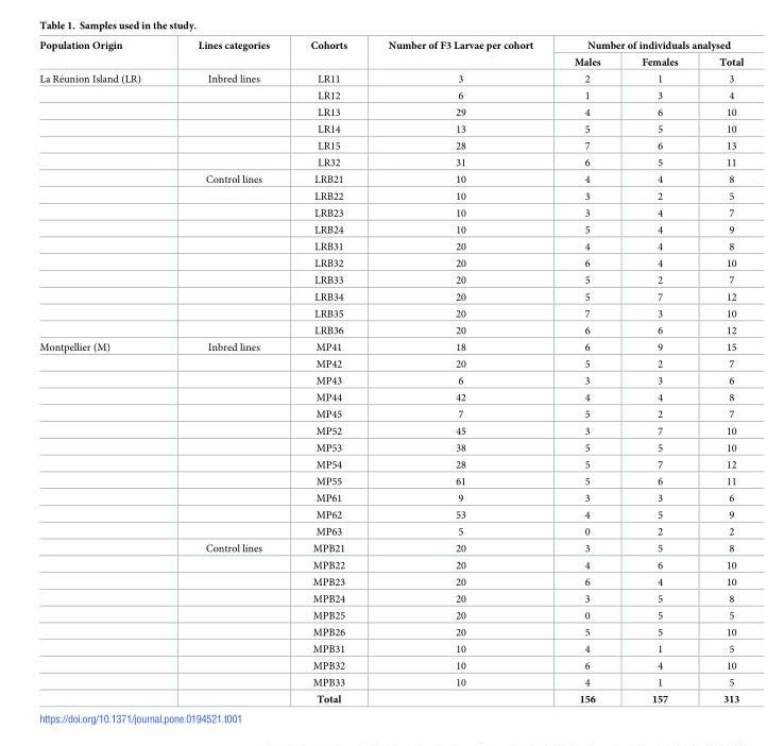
<table><thead><tr><td rowspan="2">Population Origin</td><td rowspan="2">Lines categories</td><td rowspan="2">Cohorts</td><td rowspan="2">Number of F3 Larvae per cohort</td><td colspan="3">Number of individuals analysed</td></tr><tr><td>Males</td><td>Females</td><td>Total</td></tr></thead><tbody><tr><td rowspan="16">La Re´union Island (LR)</td><td>Inbred lines</td><td>LR11</td><td>3</td><td>2</td><td>1</td><td>3</td></tr><tr><td></td><td>LR12</td><td>6</td><td>1</td><td>3</td><td>4</td></tr><tr><td></td><td>LR13</td><td>29</td><td>4</td><td>6</td><td>10</td></tr><tr><td></td><td>LR14</td><td>13</td><td>5</td><td>5</td><td>10</td></tr><tr><td></td><td>LR15</td><td>28</td><td>7</td><td>6</td><td>13</td></tr><tr><td></td><td>LR32</td><td>31</td><td>6</td><td>5</td><td>11</td></tr><tr><td>Control lines</td><td>LRB21</td><td>10</td><td>4</td><td>4</td><td>8</td></tr><tr><td></td><td>LRB22</td><td>10</td><td>3</td><td>2</td><td>5</td></tr><tr><td></td><td>LRB23</td><td>10</td><td>3</td><td>4</td><td>7</td></tr><tr><td></td><td>LRB24</td><td>10</td><td>5</td><td>4</td><td>9</td></tr><tr><td></td><td>LRB31</td><td>20</td><td>4</td><td>4</td><td>8</td></tr><tr><td></td><td>LRB32</td><td>20</td><td>6</td><td>4</td><td>10</td></tr><tr><td></td><td>LRB33</td><td>20</td><td>5</td><td>2</td><td>7</td></tr><tr><td></td><td>LRB34</td><td>20</td><td>5</td><td>7</td><td>12</td></tr><tr><td></td><td>LRB35</td><td>20</td><td>7</td><td>3</td><td>10</td></tr><tr><td></td><td>LRB36</td><td>20</td><td>6</td><td>6</td><td>12</td></tr><tr><td rowspan="22">Montpellier (M)</td><td>Inbred lines</td><td>MP41</td><td>18</td><td>6</td><td>9</td><td>15</td></tr><tr><td></td><td>MP42</td><td>20</td><td>5</td><td>2</td><td>7</td></tr><tr><td></td><td>MP43</td><td>6</td><td>3</td><td>3</td><td>6</td></tr><tr><td></td><td>MP44</td><td>42</td><td>4</td><td>4</td><td>8</td></tr><tr><td></td><td>MP45</td><td>7</td><td>5</td><td>2</td><td>7</td></tr><tr><td></td><td>MP52</td><td>45</td><td>3</td><td>7</td><td>10</td></tr><tr><td></td><td>MP53</td><td>38</td><td>5</td><td>5</td><td>10</td></tr><tr><td></td><td>MP54</td><td>28</td><td>5</td><td>7</td><td>12</td></tr><tr><td></td><td>MP55</td><td>61</td><td>5</td><td>6</td><td>11</td></tr><tr><td></td><td>MP61</td><td>9</td><td>3</td><td>3</td><td>6</td></tr><tr><td></td><td>MP62</td><td>53</td><td>4</td><td>5</td><td>9</td></tr><tr><td></td><td>MP63</td><td>5</td><td>0</td><td>2</td><td>2</td></tr><tr><td>Control lines</td><td>MPB21</td><td>20</td><td>3</td><td>5</td><td>8</td></tr><tr><td></td><td>MPB22</td><td>20</td><td>4</td><td>6</td><td>10</td></tr><tr><td></td><td>MPB23</td><td>20</td><td>6</td><td>4</td><td>10</td></tr><tr><td></td><td>MPB24</td><td>20</td><td>3</td><td>5</td><td>8</td></tr><tr><td></td><td>MPB25</td><td>20</td><td>0</td><td>5</td><td>5</td></tr><tr><td></td><td>MPB26</td><td>20</td><td>5</td><td>5</td><td>10</td></tr><tr><td></td><td>MPB31</td><td>10</td><td>4</td><td>1</td><td>5</td></tr><tr><td></td><td>MPB32</td><td>10</td><td>6</td><td>4</td><td>10</td></tr><tr><td></td><td>MPB33</td><td>10</td><td>4</td><td>1</td><td>5</td></tr><tr><td></td><td>Total</td><td></td><td>156</td><td>157</td><td>313</td></tr></tbody></table>